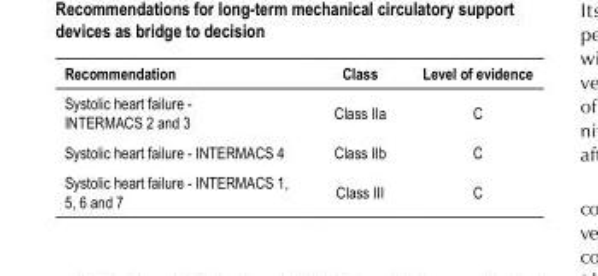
<table><thead><tr><td>Recommendation</td><td>Class</td><td>Level of evidence</td></tr></thead><tbody><tr><td>Systolic heart failure ‑ INTERMACS 2 and 3</td><td>Class IIa</td><td>C</td></tr><tr><td>Systolic heart failure ‑ INTERMACS 4</td><td>Class IIb</td><td>C</td></tr><tr><td>Systolic heart failure ‑ INTERMACS 1, 5, 6 and 7</td><td>Class III</td><td>C</td></tr></tbody></table>